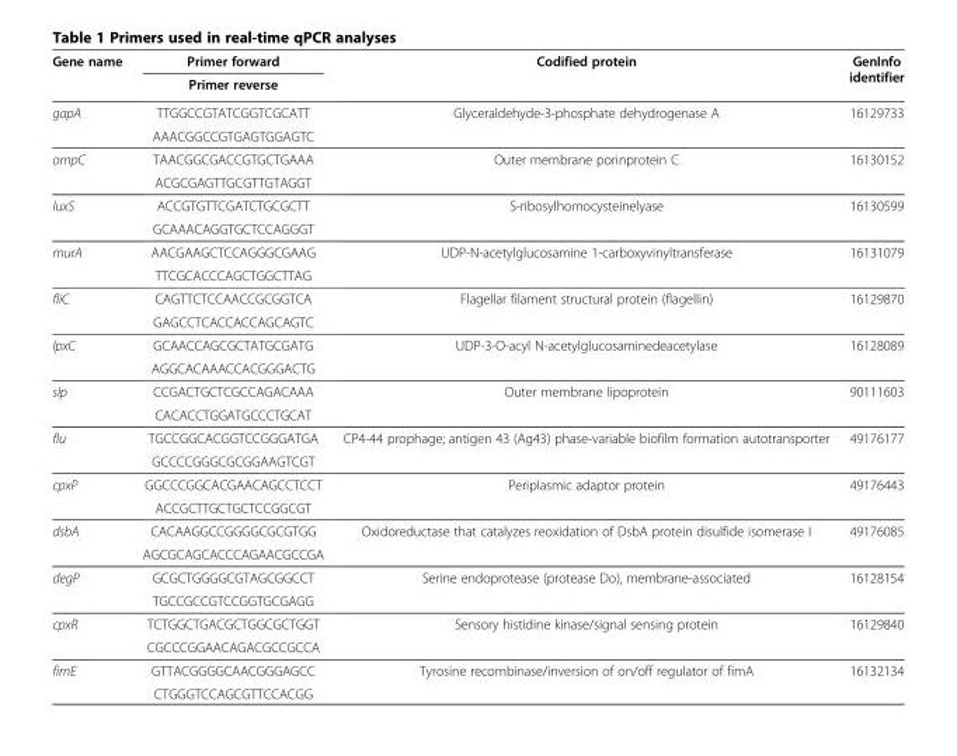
<table><thead><tr><td rowspan="2">Gene name</td><td rowspan="2">Primer forward Primer reverse</td><td rowspan="2">Codified protein</td><td rowspan="2">GenInfo identifier</td></tr><tr></tr></thead><tbody><tr><td rowspan="2">gapA</td><td>TTGGCCGTATCGGTCGCATT</td><td rowspan="2">Glyceraldehyde-3-phosphate dehydrogenase A</td><td rowspan="2">16129733</td></tr><tr><td>AAACGGCCGTGAGTGGAGTC</td></tr><tr><td rowspan="2">ompC</td><td>TAACGGCGACCGTGCTGAAA</td><td rowspan="2">Outer membrane porinprotein C</td><td rowspan="2">16130152</td></tr><tr><td>ACGCGAGTTGCGTTGTAGGT</td></tr><tr><td rowspan="2">luxS</td><td>ACCGTGTTCGATCTGCGCTT</td><td rowspan="2">S-ribosylhomocysteinelyase</td><td rowspan="2">16130599</td></tr><tr><td>GCAAACAGGTGCTCCAGGGT</td></tr><tr><td rowspan="2">murA</td><td>AACGAAGCTCCAGGGCGAAG</td><td rowspan="2">UDP-N-acetylglucosamine 1-carboxyvinyltransferase</td><td rowspan="2">16131079</td></tr><tr><td>TTCGCACCCAGCTGGCTTAG</td></tr><tr><td rowspan="2">fliC</td><td>CAGTTCTCCAACCGCGGTCA</td><td rowspan="2">Flagellar filament structural protein (flagellin)</td><td rowspan="2">16129870</td></tr><tr><td>GAGCCTCACCACCAGCAGTC</td></tr><tr><td rowspan="2">lpxC</td><td>GCAACCAGCGCTATGCGATG</td><td rowspan="2">UDP-3-O-acyl N-acetylglucosaminedeacetylase</td><td rowspan="2">16128089</td></tr><tr><td>AGGCACAAACCACGGGACTG</td></tr><tr><td rowspan="2">slp</td><td>CCGACTGCTCGCCAGACAAA</td><td rowspan="2">Outer membrane lipoprotein</td><td rowspan="2">90111603</td></tr><tr><td>CACACCTGGATGCCCTGCAT</td></tr><tr><td rowspan="2">flu</td><td>TGCCGGCACGGTCCGGGATGA</td><td rowspan="2">CP4-44 prophage; antigen 43 (Ag43) phase-variable biofilm formation autotransporter</td><td rowspan="2">49176177</td></tr><tr><td>GCCCCGGGCGCGGAAGTCGT</td></tr><tr><td rowspan="2">cpxP</td><td>GGCCCGGCACGAACAGCCTCCT</td><td rowspan="2">Periplasmic adaptor protein</td><td rowspan="2">49176443</td></tr><tr><td>ACCGCTTGCTGCTCCGGCGT</td></tr><tr><td rowspan="2">dsbA</td><td>CACAAGGCCGGGGCGCGTGG</td><td rowspan="2">Oxidoreductase that catalyzes reoxidation of DsbA protein disulfide isomerase I</td><td rowspan="2">49176085</td></tr><tr><td>AGCGCAGCACCCAGAACGCCGA</td></tr><tr><td rowspan="2">degP</td><td>GCGCTGGGGCGTAGCGGCCT</td><td rowspan="2">Serine endoprotease (protease Do), membrane-associated</td><td rowspan="2">16128154</td></tr><tr><td>TGCCGCCGTCCGGTGCGAGG</td></tr><tr><td rowspan="2">cpxR</td><td>TCTGGCTGACGCTGGCGCTGGT</td><td rowspan="2">Sensory histidine kinase/signal sensing protein</td><td rowspan="2">16129840</td></tr><tr><td>CGCCCGGAACAGACGCCGCCA</td></tr><tr><td rowspan="2">fimE</td><td>GTTACGGGGCAACGGGAGCC</td><td rowspan="2">Tyrosine recombinase/inversion of on/off regulator of fimA</td><td rowspan="2">16132134</td></tr><tr><td>CTGGGTCCAGCGTTCCACGG</td></tr></tbody></table>